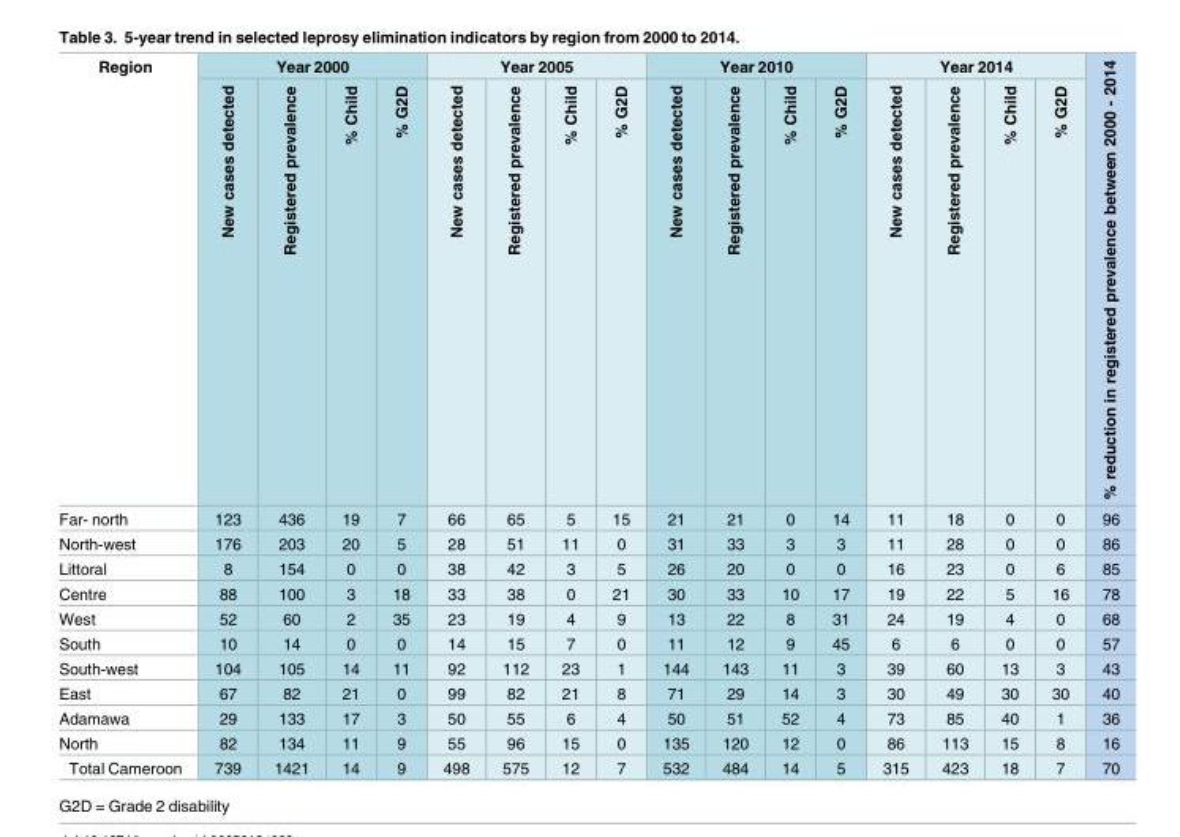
<table><thead><tr><td rowspan="2">Region</td><td colspan="4">Year 2000</td><td colspan="4">Year 2005</td><td colspan="4">Year 2010</td><td colspan="4">Year 2014</td><td rowspan="2">% reduction in registered prevalence between 2000 - 2014</td></tr><tr><td>New cases detected</td><td>Registered prevalence</td><td>% Child</td><td>% G2D</td><td>New cases detected</td><td>Registered prevalence</td><td>% Child</td><td>% G2D</td><td>New cases detected</td><td>Registered prevalence</td><td>% Child</td><td>% G2D</td><td>New cases detected</td><td>Registered prevalence</td><td>% Child</td><td>% G2D</td></tr></thead><tbody><tr><td>Far- north</td><td>123</td><td>436</td><td>19</td><td>7</td><td>66</td><td>65</td><td>5</td><td>15</td><td>21</td><td>21</td><td>0</td><td>14</td><td>11</td><td>18</td><td>0</td><td>0</td><td>96</td></tr><tr><td>North-west</td><td>176</td><td>203</td><td>20</td><td>5</td><td>28</td><td>51</td><td>11</td><td>0</td><td>31</td><td>33</td><td>3</td><td>3</td><td>11</td><td>28</td><td>0</td><td>0</td><td>86</td></tr><tr><td>Littoral</td><td>8</td><td>154</td><td>0</td><td>0</td><td>38</td><td>42</td><td>3</td><td>5</td><td>26</td><td>20</td><td>0</td><td>0</td><td>16</td><td>23</td><td>0</td><td>6</td><td>85</td></tr><tr><td>Centre</td><td>88</td><td>100</td><td>3</td><td>18</td><td>33</td><td>38</td><td>0</td><td>21</td><td>30</td><td>33</td><td>10</td><td>17</td><td>19</td><td>22</td><td>5</td><td>16</td><td>78</td></tr><tr><td>West</td><td>52</td><td>60</td><td>2</td><td>35</td><td>23</td><td>19</td><td>4</td><td>9</td><td>13</td><td>22</td><td>8</td><td>31</td><td>24</td><td>19</td><td>4</td><td>0</td><td>68</td></tr><tr><td>South</td><td>10</td><td>14</td><td>0</td><td>0</td><td>14</td><td>15</td><td>7</td><td>0</td><td>11</td><td>12</td><td>9</td><td>45</td><td>6</td><td>6</td><td>0</td><td>0</td><td>57</td></tr><tr><td>South-west</td><td>104</td><td>105</td><td>14</td><td>11</td><td>92</td><td>112</td><td>23</td><td>1</td><td>144</td><td>143</td><td>11</td><td>3</td><td>39</td><td>60</td><td>13</td><td>3</td><td>43</td></tr><tr><td>East</td><td>67</td><td>82</td><td>21</td><td>0</td><td>99</td><td>82</td><td>21</td><td>8</td><td>71</td><td>29</td><td>14</td><td>3</td><td>30</td><td>49</td><td>30</td><td>30</td><td>40</td></tr><tr><td>Adamawa</td><td>29</td><td>133</td><td>17</td><td>3</td><td>50</td><td>55</td><td>6</td><td>4</td><td>50</td><td>51</td><td>52</td><td>4</td><td>73</td><td>85</td><td>40</td><td>1</td><td>36</td></tr><tr><td>North</td><td>82</td><td>134</td><td>11</td><td>9</td><td>55</td><td>96</td><td>15</td><td>0</td><td>135</td><td>120</td><td>12</td><td>0</td><td>86</td><td>113</td><td>15</td><td>8</td><td>16</td></tr><tr><td>Total Cameroon</td><td>739</td><td>1421</td><td>14</td><td>9</td><td>498</td><td>575</td><td>12</td><td>7</td><td>532</td><td>484</td><td>14</td><td>5</td><td>315</td><td>423</td><td>18</td><td>7</td><td>70</td></tr></tbody></table>